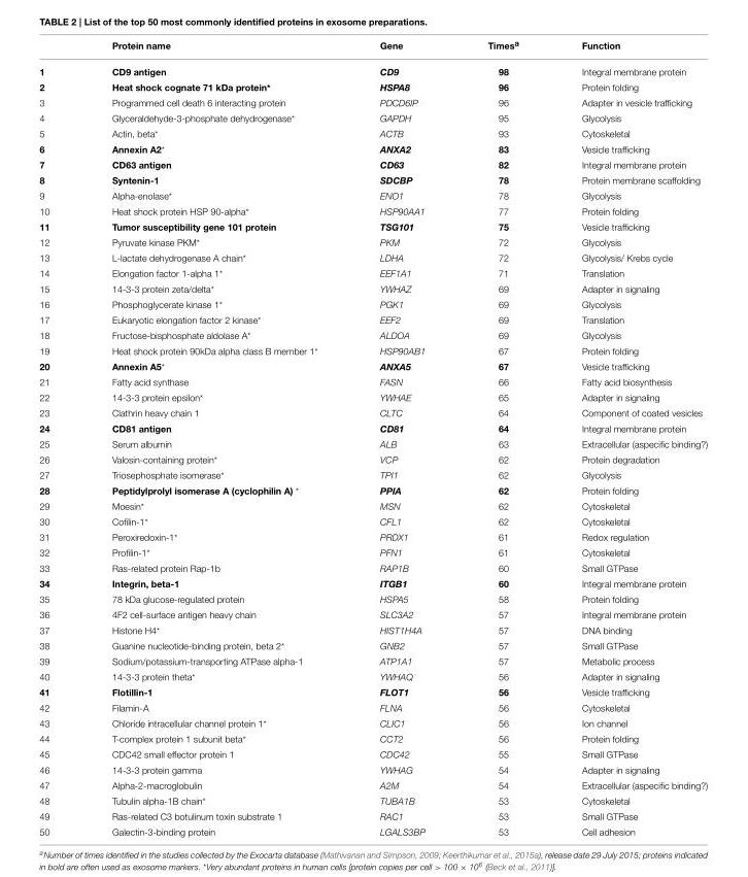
<table><thead><tr><td></td><td>Protein name</td><td>Gene</td><td>Times<sup>a</sup></td><td>Function</td></tr></thead><tbody><tr><td>1</td><td>CD9 antigen</td><td>CD9</td><td>98</td><td>Integral membrane protein</td></tr><tr><td>2</td><td>Heat shock cognate 71 kDa protein*</td><td>HSPA8</td><td>96</td><td>Protein folding</td></tr><tr><td>3</td><td>Programmed cell death 6 interacting protein</td><td>PDCD6IP</td><td>96</td><td>Adapter in vesicle trafficking</td></tr><tr><td>4</td><td>Glyceraldehyde-3-phosphate dehydrogenase*</td><td>GAPDH</td><td>95</td><td>Glycolysis</td></tr><tr><td>5</td><td>Actin, beta*</td><td>ACTB</td><td>93</td><td>Cytoskeletal</td></tr><tr><td>6</td><td>Annexin A2*</td><td>ANXA2</td><td>83</td><td>Vesicle trafficking</td></tr><tr><td>7</td><td>CD63 antigen</td><td>CD63</td><td>82</td><td>Integral membrane protein</td></tr><tr><td>8</td><td>Syntenin-1</td><td>SDCBP</td><td>78</td><td>Protein membrane scaffolding</td></tr><tr><td>9</td><td>Alpha-enolase*</td><td>ENO1</td><td>78</td><td>Glycolysis</td></tr><tr><td>10</td><td>Heat shock protein HSP 90-alpha*</td><td>HSP90AA1</td><td>77</td><td>Protein folding</td></tr><tr><td>11</td><td>Tumor susceptibility gene 101 protein</td><td>TSG101</td><td>75</td><td>Vesicle trafficking</td></tr><tr><td>12</td><td>Pyruvate kinase PKM*</td><td>PKM</td><td>72</td><td>Glycolysis</td></tr><tr><td>13</td><td>L-lactate dehydrogenase A chain*</td><td>LDHA</td><td>72</td><td>Glycolysis/ Krebs cycle</td></tr><tr><td>14</td><td>Elongation factor 1-alpha 1*</td><td>EEF1A1</td><td>71</td><td>Translation</td></tr><tr><td>15</td><td>14-3-3 protein zeta/delta*</td><td>YWHAZ</td><td>69</td><td>Adapter in signaling</td></tr><tr><td>16</td><td>Phosphoglycerate kinase 1*</td><td>PGK1</td><td>69</td><td>Glycolysis</td></tr><tr><td>17</td><td>Eukaryotic elongation factor 2 kinase*</td><td>EEF2</td><td>69</td><td>Translation</td></tr><tr><td>18</td><td>Fructose-bisphosphate aldolase A*</td><td>ALDOA</td><td>69</td><td>Glycolysis</td></tr><tr><td>19</td><td>Heat shock protein 90kDa alpha class B member 1*</td><td>HSP90AB1</td><td>67</td><td>Protein folding</td></tr><tr><td>20</td><td>Annexin A5*</td><td>ANXA5</td><td>67</td><td>Vesicle trafficking</td></tr><tr><td>21</td><td>Fatty acid synthase</td><td>FASN</td><td>66</td><td>Fatty acid biosynthesis</td></tr><tr><td>22</td><td>14-3-3 protein epsilon*</td><td>YWHAE</td><td>65</td><td>Adapter in signaling</td></tr><tr><td>23</td><td>Clathrin heavy chain 1</td><td>CLTC</td><td>64</td><td>Component of coated vesicles</td></tr><tr><td>24</td><td>CD81 antigen</td><td>CD81</td><td>64</td><td>Integral membrane protein</td></tr><tr><td>25</td><td>Serum albumin</td><td>ALB</td><td>63</td><td>Extracellular (aspecific binding?)</td></tr><tr><td>26</td><td>Valosin-containing protein*</td><td>VCP</td><td>62</td><td>Protein degradation</td></tr><tr><td>27</td><td>Triosephosphate isomerase*</td><td>TPI1</td><td>62</td><td>Glycolysis</td></tr><tr><td>28</td><td>Peptidylprolyl isomerase A (cyclophilin A) *</td><td>PPIA</td><td>62</td><td>Protein folding</td></tr><tr><td>29</td><td>Moesin*</td><td>MSN</td><td>62</td><td>Cytoskeletal</td></tr><tr><td>30</td><td>Cofilin-1*</td><td>CFL1</td><td>62</td><td>Cytoskeletal</td></tr><tr><td>31</td><td>Peroxiredoxin-1*</td><td>PRDX1</td><td>61</td><td>Redox regulation</td></tr><tr><td>32</td><td>Profilin-1*</td><td>PFN1</td><td>61</td><td>Cytoskeletal</td></tr><tr><td>33</td><td>Ras-related protein Rap-1b</td><td>RAP1B</td><td>60</td><td>Small GTPase</td></tr><tr><td>34</td><td>Integrin, beta-1</td><td>ITGB1</td><td>60</td><td>Integral membrane protein</td></tr><tr><td>35</td><td>78 kDa glucose-regulated protein</td><td>HSPA5</td><td>58</td><td>Protein folding</td></tr><tr><td>36</td><td>4F2 cell-surface antigen heavy chain</td><td>SLC3A2</td><td>57</td><td>Integral membrane protein</td></tr><tr><td>37</td><td>Histone H4*</td><td>HIST1H4A</td><td>57</td><td>DNA binding</td></tr><tr><td>38</td><td>Guanine nucleotide-binding protein, beta 2*</td><td>GNB2</td><td>57</td><td>Small GTPase</td></tr><tr><td>39</td><td>Sodium/potassium-transporting ATPase alpha-1</td><td>ATP1A1</td><td>57</td><td>Metabolic process</td></tr><tr><td>40</td><td>14-3-3 protein theta*</td><td>YWHAQ</td><td>56</td><td>Adapter in signaling</td></tr><tr><td>41</td><td>Flotillin-1</td><td>FLOT1</td><td>56</td><td>Vesicle trafficking</td></tr><tr><td>42</td><td>Filamin-A</td><td>FLNA</td><td>56</td><td>Cytoskeletal</td></tr><tr><td>43</td><td>Chloride intracellular channel protein 1*</td><td>CLIC1</td><td>56</td><td>Ion channel</td></tr><tr><td>44</td><td>T-complex protein 1 subunit beta*</td><td>CCT2</td><td>56</td><td>Protein folding</td></tr><tr><td>45</td><td>CDC42 small effector protein 1</td><td>CDC42</td><td>55</td><td>Small GTPase</td></tr><tr><td>46</td><td>14-3-3 protein gamma</td><td>YWHAG</td><td>54</td><td>Adapter in signaling</td></tr><tr><td>47</td><td>Alpha-2-macroglobulin</td><td>A2M</td><td>54</td><td>Extracellular (aspecific binding?)</td></tr><tr><td>48</td><td>Tubulin alpha-1B chain*</td><td>TUBA1B</td><td>53</td><td>Cytoskeletal</td></tr><tr><td>49</td><td>Ras-related C3 botulinum toxin substrate 1</td><td>RAC1</td><td>53</td><td>Small GTPase</td></tr><tr><td>50</td><td>Galectin-3-binding protein</td><td>LGALS3BP</td><td>53</td><td>Cell adhesion</td></tr></tbody></table>